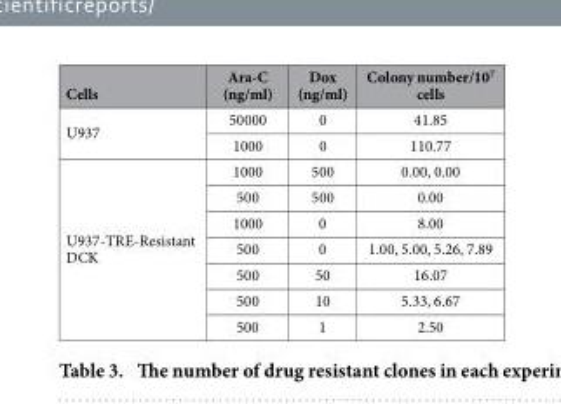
<table><thead><tr><td>Cells</td><td>Ara-C (ng/ml)</td><td>Dox (ng/ml)</td><td>Colony number/10<sup>7</sup> cells</td></tr></thead><tbody><tr><td rowspan="2">U937</td><td>50000</td><td>0</td><td>41.85</td></tr><tr><td>1000</td><td>0</td><td>110.77</td></tr><tr><td rowspan="7">U937-TRE-Resistant DCK</td><td>1000</td><td>500</td><td>0.00, 0.00</td></tr><tr><td>500</td><td>500</td><td>0.00</td></tr><tr><td>1000</td><td>0</td><td>8.00</td></tr><tr><td>500</td><td>0</td><td>1.00, 5.00, 5.26, 7.89</td></tr><tr><td>500</td><td>50</td><td>16.07</td></tr><tr><td>500</td><td>10</td><td>5.33, 6.67</td></tr><tr><td>500</td><td>1</td><td>2.50</td></tr></tbody></table>